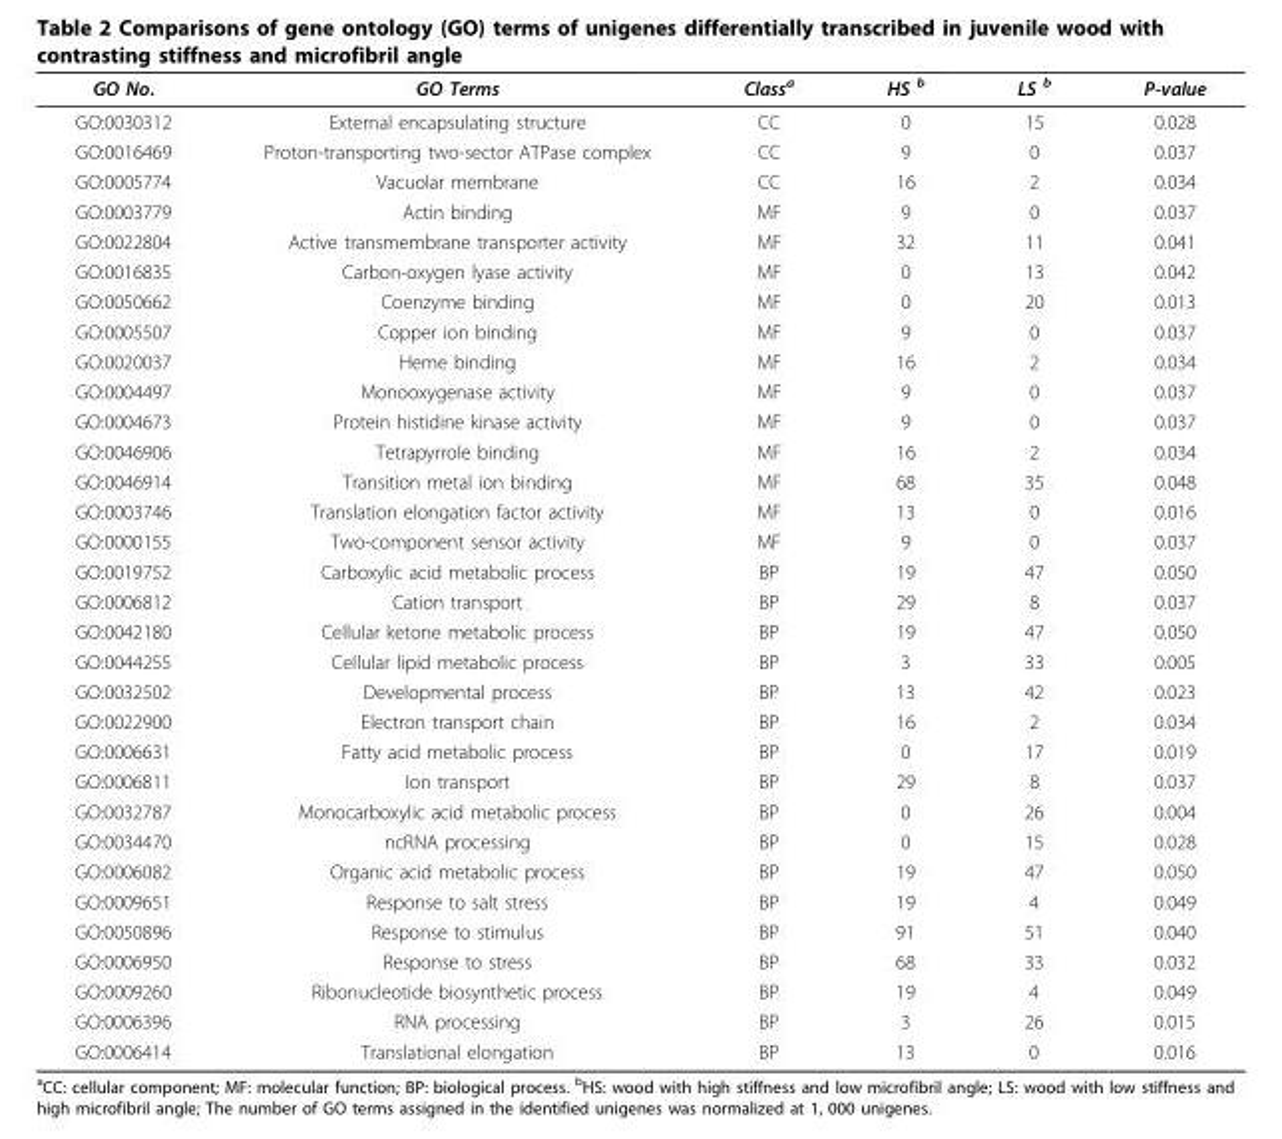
<table><thead><tr><td>GO No.</td><td>GO Terms</td><td>Class<sup>a</sup></td><td>HS <sup>b</sup></td><td>LS <sup>b</sup></td><td>P-value</td></tr></thead><tbody><tr><td>GO:0030312</td><td>External encapsulating structure</td><td>CC</td><td>0</td><td>15</td><td>0.028</td></tr><tr><td>GO:0016469</td><td>Proton-transporting two-sector ATPase complex</td><td>CC</td><td>9</td><td>0</td><td>0.037</td></tr><tr><td>GO:0005774</td><td>Vacuolar membrane</td><td>CC</td><td>16</td><td>2</td><td>0.034</td></tr><tr><td>GO:0003779</td><td>Actin binding</td><td>MF</td><td>9</td><td>0</td><td>0.037</td></tr><tr><td>GO:0022804</td><td>Active transmembrane transporter activity</td><td>MF</td><td>32</td><td>11</td><td>0.041</td></tr><tr><td>GO:0016835</td><td>Carbon-oxygen lyase activity</td><td>MF</td><td>0</td><td>13</td><td>0.042</td></tr><tr><td>GO:0050662</td><td>Coenzyme binding</td><td>MF</td><td>0</td><td>20</td><td>0.013</td></tr><tr><td>GO:0005507</td><td>Copper ion binding</td><td>MF</td><td>9</td><td>0</td><td>0.037</td></tr><tr><td>GO:0020037</td><td>Heme binding</td><td>MF</td><td>16</td><td>2</td><td>0.034</td></tr><tr><td>GO:0004497</td><td>Monooxygenase activity</td><td>MF</td><td>9</td><td>0</td><td>0.037</td></tr><tr><td>GO:0004673</td><td>Protein histidine kinase activity</td><td>MF</td><td>9</td><td>0</td><td>0.037</td></tr><tr><td>GO:0046906</td><td>Tetrapyrrole binding</td><td>MF</td><td>16</td><td>2</td><td>0.034</td></tr><tr><td>GO:0046914</td><td>Transition metal ion binding</td><td>MF</td><td>68</td><td>35</td><td>0.048</td></tr><tr><td>GO:0003746</td><td>Translation elongation factor activity</td><td>MF</td><td>13</td><td>0</td><td>0.016</td></tr><tr><td>GO:0000155</td><td>Two-component sensor activity</td><td>MF</td><td>9</td><td>0</td><td>0.037</td></tr><tr><td>GO:0019752</td><td>Carboxylic acid metabolic process</td><td>BP</td><td>19</td><td>47</td><td>0.050</td></tr><tr><td>GO:0006812</td><td>Cation transport</td><td>BP</td><td>29</td><td>8</td><td>0.037</td></tr><tr><td>GO:0042180</td><td>Cellular ketone metabolic process</td><td>BP</td><td>19</td><td>47</td><td>0.050</td></tr><tr><td>GO:0044255</td><td>Cellular lipid metabolic process</td><td>BP</td><td>3</td><td>33</td><td>0.005</td></tr><tr><td>GO:0032502</td><td>Developmental process</td><td>BP</td><td>13</td><td>42</td><td>0.023</td></tr><tr><td>GO:0022900</td><td>Electron transport chain</td><td>BP</td><td>16</td><td>2</td><td>0.034</td></tr><tr><td>GO:0006631</td><td>Fatty acid metabolic process</td><td>BP</td><td>0</td><td>17</td><td>0.019</td></tr><tr><td>GO:0006811</td><td>Ion transport</td><td>BP</td><td>29</td><td>8</td><td>0.037</td></tr><tr><td>GO:0032787</td><td>Monocarboxylic acid metabolic process</td><td>BP</td><td>0</td><td>26</td><td>0.004</td></tr><tr><td>GO:0034470</td><td>ncRNA processing</td><td>BP</td><td>0</td><td>15</td><td>0.028</td></tr><tr><td>GO:0006082</td><td>Organic acid metabolic process</td><td>BP</td><td>19</td><td>47</td><td>0.050</td></tr><tr><td>GO:0009651</td><td>Response to salt stress</td><td>BP</td><td>19</td><td>4</td><td>0.049</td></tr><tr><td>GO:0050896</td><td>Response to stimulus</td><td>BP</td><td>91</td><td>51</td><td>0.040</td></tr><tr><td>GO:0006950</td><td>Response to stress</td><td>BP</td><td>68</td><td>33</td><td>0.032</td></tr><tr><td>GO:0009260</td><td>Ribonucleotide biosynthetic process</td><td>BP</td><td>19</td><td>4</td><td>0.049</td></tr><tr><td>GO:0006396</td><td>RNA processing</td><td>BP</td><td>3</td><td>26</td><td>0.015</td></tr><tr><td>GO:0006414</td><td>Translational elongation</td><td>BP</td><td>13</td><td>0</td><td>0.016</td></tr></tbody></table>